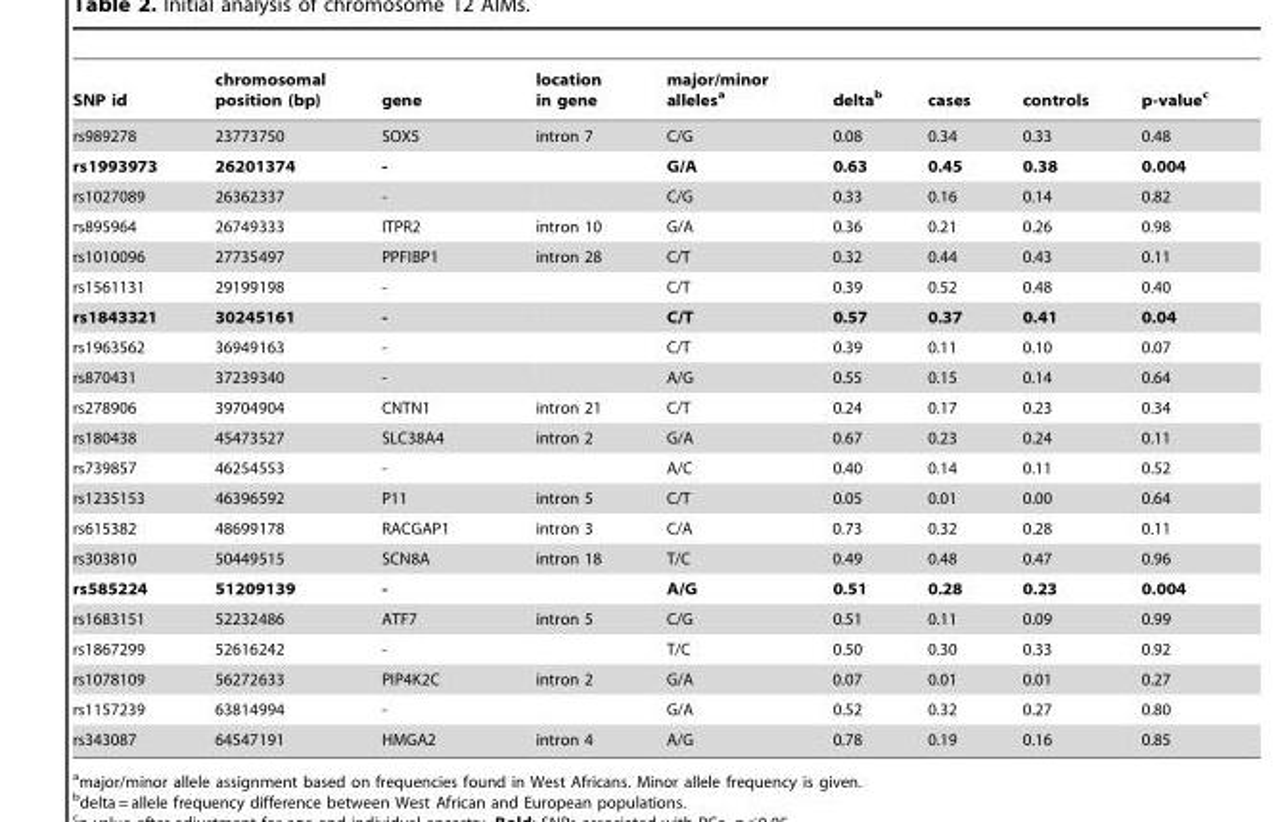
<table><thead><tr><td>SNP id</td><td>chromosomal position (bp)</td><td>gene</td><td>location in gene</td><td>major/minor alleles<sup>a</sup></td><td>delta<sup>b</sup></td><td>cases</td><td>controls</td><td>p-value<sup>c</sup></td></tr></thead><tbody><tr><td>rs989278</td><td>23773750</td><td>SOX5</td><td>intron 7</td><td>C/G</td><td>0.08</td><td>0.34</td><td>0.33</td><td>0.48</td></tr><tr><td>rs1993973</td><td>26201374</td><td>-</td><td></td><td>G/A</td><td>0.63</td><td>0.45</td><td>0.38</td><td>0.004</td></tr><tr><td>rs1027089</td><td>26362337</td><td>-</td><td></td><td>C/G</td><td>0.33</td><td>0.16</td><td>0.14</td><td>0.82</td></tr><tr><td>rs895964</td><td>26749333</td><td>ITPR2</td><td>intron 10</td><td>G/A</td><td>0.36</td><td>0.21</td><td>0.26</td><td>0.98</td></tr><tr><td>rs1010096</td><td>27735497</td><td>PPFIBP1</td><td>intron 28</td><td>C/T</td><td>0.32</td><td>0.44</td><td>0.43</td><td>0.11</td></tr><tr><td>rs1561131</td><td>29199198</td><td>-</td><td></td><td>C/T</td><td>0.39</td><td>0.52</td><td>0.48</td><td>0.40</td></tr><tr><td>rs1843321</td><td>30245161</td><td>-</td><td></td><td>C/T</td><td>0.57</td><td>0.37</td><td>0.41</td><td>0.04</td></tr><tr><td>rs1963562</td><td>36949163</td><td>-</td><td></td><td>C/T</td><td>0.39</td><td>0.11</td><td>0.10</td><td>0.07</td></tr><tr><td>rs870431</td><td>37239340</td><td>-</td><td></td><td>A/G</td><td>0.55</td><td>0.15</td><td>0.14</td><td>0.64</td></tr><tr><td>rs278906</td><td>39704904</td><td>CNTN1</td><td>intron 21</td><td>C/T</td><td>0.24</td><td>0.17</td><td>0.23</td><td>0.34</td></tr><tr><td>rs180438</td><td>45473527</td><td>SLC38A4</td><td>intron 2</td><td>G/A</td><td>0.67</td><td>0.23</td><td>0.24</td><td>0.11</td></tr><tr><td>rs739857</td><td>46254553</td><td>-</td><td></td><td>A/C</td><td>0.40</td><td>0.14</td><td>0.11</td><td>0.52</td></tr><tr><td>rs1235153</td><td>46396592</td><td>P11</td><td>intron 5</td><td>C/T</td><td>0.05</td><td>0.01</td><td>0.00</td><td>0.64</td></tr><tr><td>rs615382</td><td>48699178</td><td>RACGAP1</td><td>intron 3</td><td>C/A</td><td>0.73</td><td>0.32</td><td>0.28</td><td>0.11</td></tr><tr><td>rs303810</td><td>50449515</td><td>SCN8A</td><td>intron 18</td><td>T/C</td><td>0.49</td><td>0.48</td><td>0.47</td><td>0.96</td></tr><tr><td>rs585224</td><td>51209139</td><td>-</td><td></td><td>A/G</td><td>0.51</td><td>0.28</td><td>0.23</td><td>0.004</td></tr><tr><td>rs1683151</td><td>52232486</td><td>ATF7</td><td>intron 5</td><td>C/G</td><td>0.51</td><td>0.11</td><td>0.09</td><td>0.99</td></tr><tr><td>rs1867299</td><td>52616242</td><td>-</td><td></td><td>T/C</td><td>0.50</td><td>0.30</td><td>0.33</td><td>0.92</td></tr><tr><td>rs1078109</td><td>56272633</td><td>PIP4K2C</td><td>intron 2</td><td>G/A</td><td>0.07</td><td>0.01</td><td>0.01</td><td>0.27</td></tr><tr><td>rs1157239</td><td>63814994</td><td>-</td><td></td><td>G/A</td><td>0.52</td><td>0.32</td><td>0.27</td><td>0.80</td></tr><tr><td>rs343087</td><td>64547191</td><td>HMGA2</td><td>intron 4</td><td>A/G</td><td>0.78</td><td>0.19</td><td>0.16</td><td>0.85</td></tr></tbody></table>